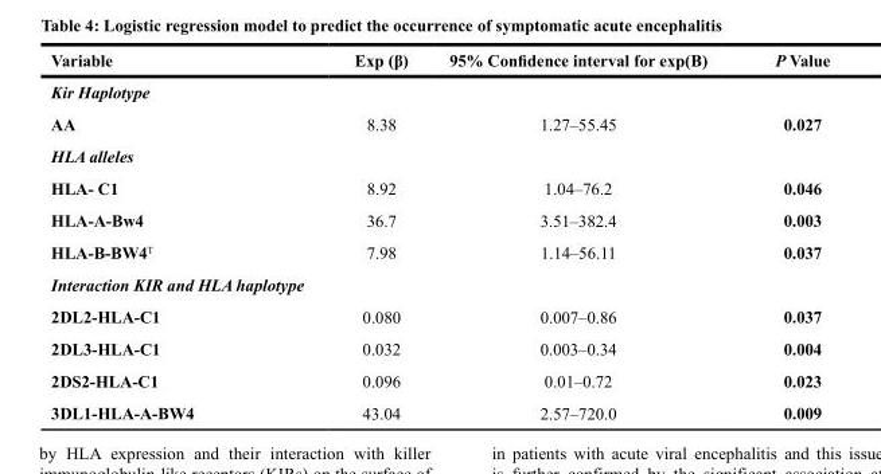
<table><thead><tr><td>Variable</td><td>Exp (β)</td><td>95% Confidence interval for exp(B)</td><td>P Value</td></tr></thead><tbody><tr><td colspan="4">Kir Haplotype</td></tr><tr><td>AA</td><td>8.38</td><td>1.27–55.45</td><td>0.027</td></tr><tr><td colspan="4">HLA alleles</td></tr><tr><td>HLA- C1</td><td>8.92</td><td>1.04–76.2</td><td>0.046</td></tr><tr><td>HLA-A-Bw4</td><td>36.7</td><td>3.51–382.4</td><td>0.003</td></tr><tr><td>HLA-B-BW4<sup>T</sup></td><td>7.98</td><td>1.14–56.11</td><td>0.037</td></tr><tr><td colspan="4">Interaction KIR and HLA haplotype</td></tr><tr><td>2DL2-HLA-C1</td><td>0.080</td><td>0.007–0.86</td><td>0.037</td></tr><tr><td>2DL3-HLA-C1</td><td>0.032</td><td>0.003–0.34</td><td>0.004</td></tr><tr><td>2DS2-HLA-C1</td><td>0.096</td><td>0.01–0.72</td><td>0.023</td></tr><tr><td>3DL1-HLA-A-BW4</td><td>43.04</td><td>2.57–720.0</td><td>0.009</td></tr></tbody></table>